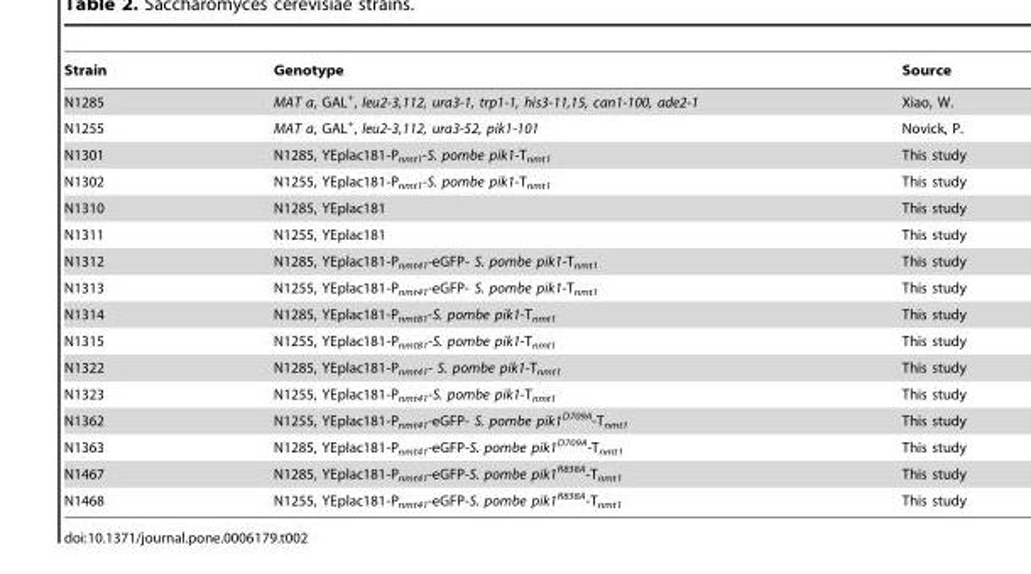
<table><thead><tr><td>Strain</td><td>Genotype</td><td>Source</td></tr></thead><tbody><tr><td>N1285</td><td>MAT a, GAL<sup>+</sup>, leu2-3,112, ura3-1, trp1-1, his3-11,15, can1-100, ade2-1</td><td>Xiao, W.</td></tr><tr><td>N1255</td><td>MAT a, GAL<sup>+</sup>, leu2-3,112, ura3-52, pik1-101</td><td>Novick, P.</td></tr><tr><td>N1301</td><td>N1285, YEplac181-P<sub>nmt1</sub>-S. pombe pik1-T<sub>nmt1</sub></td><td>This study</td></tr><tr><td>N1302</td><td>N1255, YEplac181-P<sub>nmt1</sub>-S. pombe pik1-T<sub>nmt1</sub></td><td>This study</td></tr><tr><td>N1310</td><td>N1285, YEplac181</td><td>This study</td></tr><tr><td>N1311</td><td>N1255, YEplac181</td><td>This study</td></tr><tr><td>N1312</td><td>N1285, YEplac181-P<sub>nmt41</sub>-eGFP- S. pombe pik1-T<sub>nmt1</sub></td><td>This study</td></tr><tr><td>N1313</td><td>N1255, YEplac181-P<sub>nmt41</sub>-eGFP- S. pombe pik1-T<sub>nmt1</sub></td><td>This study</td></tr><tr><td>N1314</td><td>N1285, YEplac181-P<sub>nmt81</sub>-S. pombe pik1-T<sub>nmt1</sub></td><td>This study</td></tr><tr><td>N1315</td><td>N1255, YEplac181-P<sub>nmt81</sub>-S. pombe pik1-T<sub>nmt1</sub></td><td>This study</td></tr><tr><td>N1322</td><td>N1285, YEplac181-P<sub>nmt41</sub>- S. pombe pik1-T<sub>nmt1</sub></td><td>This study</td></tr><tr><td>N1323</td><td>N1255, YEplac181-P<sub>nmt41</sub>-S. pombe pik1-T<sub>nmt1</sub></td><td>This study</td></tr><tr><td>N1362</td><td>N1255, YEplac181-P<sub>nmt41</sub>-eGFP- S. pombe pik1<sup>D709A</sup>-T<sub>nmt1</sub></td><td>This study</td></tr><tr><td>N1363</td><td>N1285, YEplac181-P<sub>nmt41</sub>-eGFP-S. pombe pik1<sup>D709A</sup>-T<sub>nmt1</sub></td><td>This study</td></tr><tr><td>N1467</td><td>N1285, YEplac181-P<sub>nmt41</sub>-eGFP-S. pombe pik1<sup>R838A</sup>-T<sub>nmt1</sub></td><td>This study</td></tr><tr><td>N1468</td><td>N1255, YEplac181-P<sub>nmt41</sub>-eGFP-S. pombe pik1<sup>R838A</sup>-T<sub>nmt1</sub></td><td>This study</td></tr></tbody></table>